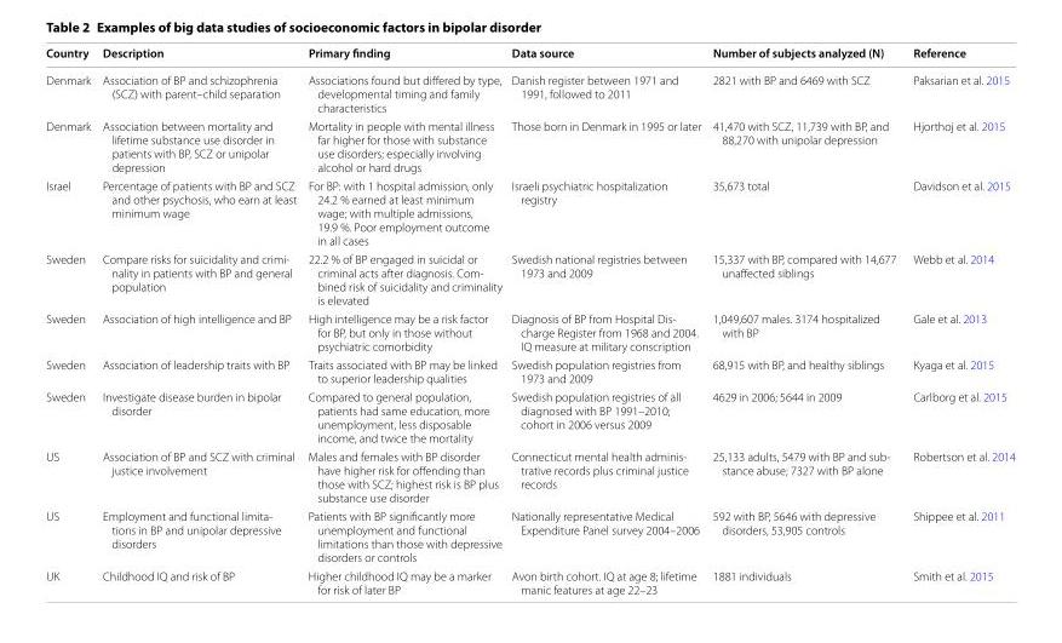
<table><thead><tr><td>Country</td><td>Description</td><td>Primary finding</td><td>Data source</td><td>Number of subjects analyzed (N)</td><td>Reference</td></tr></thead><tbody><tr><td>Denmark</td><td>Association of BP and schizophrenia (SCZ) with parent–child separation</td><td>Associations found but differed by type, developmental timing and family characteristics</td><td>Danish register between 1971 and 1991, followed to 2011</td><td>2821 with BP and 6469 with SCZ</td><td>Paksarian et al. 2015</td></tr><tr><td>Denmark</td><td>Association between mortality and lifetime substance use disorder in patients with BP, SCZ or unipolar depression</td><td>Mortality in people with mental illness far higher for those with substance use disorders; especially involving alcohol or hard drugs</td><td>Those born in Denmark in 1995 or later</td><td>41,470 with SCZ, 11,739 with BP, and 88,270 with unipolar depression</td><td>Hjorthoj et al. 2015</td></tr><tr><td>Israel</td><td>Percentage of patients with BP and SCZ and other psychosis, who earn at least minimum wage</td><td>For BP: with 1 hospital admission, only 24.2 % earned at least minimum wage; with multiple admissions, 19.9 %. Poor employment outcome in all cases</td><td>Israeli psychiatric hospitalization registry</td><td>35,673 total</td><td>Davidson et al. 2015</td></tr><tr><td>Sweden</td><td>Compare risks for suicidality and crimi‑ nality in patients with BP and general population</td><td>22.2 % of BP engaged in suicidal or criminal acts after diagnosis. Com‑ bined risk of suicidality and criminality is elevated</td><td>Swedish national registries between 1973 and 2009</td><td>15,337 with BP, compared with 14,677 unaffected siblings</td><td>Webb et al. 2014</td></tr><tr><td>Sweden</td><td>Association of high intelligence and BP</td><td>High intelligence may be a risk factor for BP, but only in those without psychiatric comorbidity</td><td>Diagnosis of BP from Hospital Dis‑ charge Register from 1968 and 2004. IQ measure at military conscription</td><td>1,049,607 males. 3174 hospitalized with BP</td><td>Gale et al. 2013</td></tr><tr><td>Sweden</td><td>Association of leadership traits with BP</td><td>Traits associated with BP may be linked to superior leadership qualities</td><td>Swedish population registries from 1973 and 2009</td><td>68,915 with BP, and healthy siblings</td><td>Kyaga et al. 2015</td></tr><tr><td>Sweden</td><td>Investigate disease burden in bipolar disorder</td><td>Compared to general population, patients had same education, more unemployment, less disposable income, and twice the mortality</td><td>Swedish population registries of all diagnosed with BP 1991–2010; cohort in 2006 versus 2009</td><td>4629 in 2006; 5644 in 2009</td><td>Carlborg et al. 2015</td></tr><tr><td>US</td><td>Association of BP and SCZ with criminal justice involvement</td><td>Males and females with BP disorder have higher risk for offending than those with SCZ; highest risk is BP plus substance use disorder</td><td>Connecticut mental health adminis‑ trative records plus criminal justice records</td><td>25,133 adults, 5479 with BP and sub‑ stance abuse; 7327 with BP alone</td><td>Robertson et al. 2014</td></tr><tr><td>US</td><td>Employment and functional limita‑ tions in BP and unipolar depressive disorders</td><td>Patients with BP significantly more unemployment and functional limitations than those with depressive disorders or controls</td><td>Nationally representative Medical Expenditure Panel survey 2004–2006</td><td>592 with BP, 5646 with depressive disorders, 53,905 controls</td><td>Shippee et al. 2011</td></tr><tr><td>UK</td><td>Childhood IQ and risk of BP</td><td>Higher childhood IQ may be a marker for risk of later BP</td><td>Avon birth cohort. IQ at age 8; lifetime manic features at age 22–23</td><td>1881 individuals</td><td>Smith et al. 2015</td></tr></tbody></table>